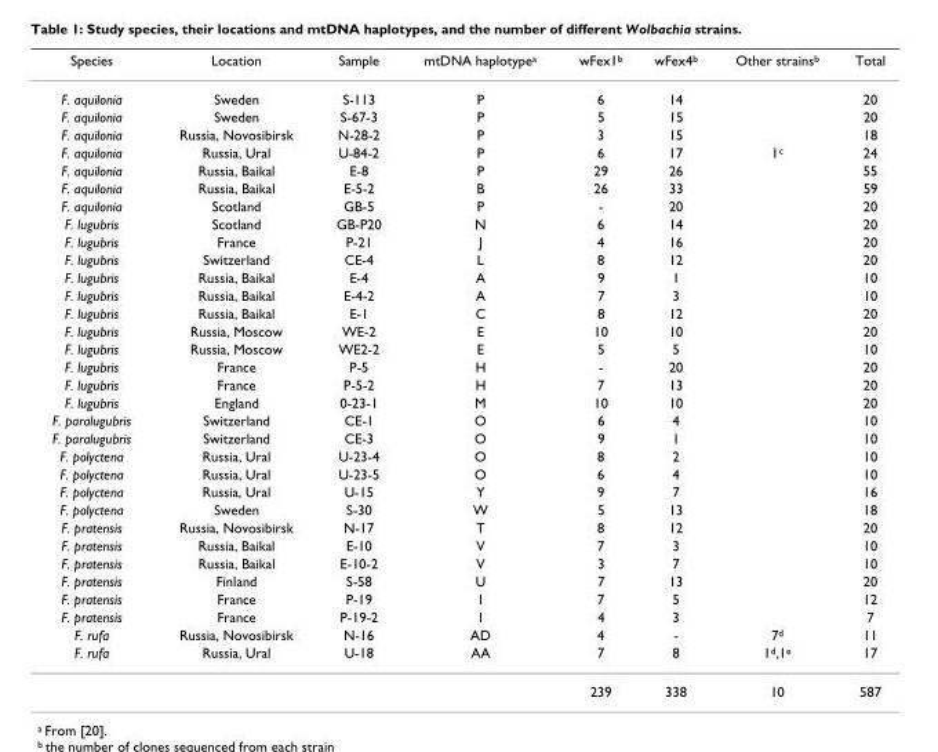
<table><thead><tr><td>Species</td><td>Location</td><td>Sample</td><td>mtDNA haplotype<sup>a</sup></td><td>wFex1<sup>b</sup></td><td>wFex4<sup>b</sup></td><td>Other strains<sup>b</sup></td><td>Total</td></tr></thead><tbody><tr><td>F. aquilonia</td><td>Sweden</td><td>S-113</td><td>P</td><td>6</td><td>14</td><td></td><td>20</td></tr><tr><td>F. aquilonia</td><td>Sweden</td><td>S-67-3</td><td>P</td><td>5</td><td>15</td><td></td><td>20</td></tr><tr><td>F. aquilonia</td><td>Russia, Novosibirsk</td><td>N-28-2</td><td>P</td><td>3</td><td>15</td><td></td><td>18</td></tr><tr><td>F. aquilonia</td><td>Russia, Ural</td><td>U-84-2</td><td>P</td><td>6</td><td>17</td><td>1<sup>c</sup></td><td>24</td></tr><tr><td>F. aquilonia</td><td>Russia, Baikal</td><td>E-8</td><td>P</td><td>29</td><td>26</td><td></td><td>55</td></tr><tr><td>F. aquilonia</td><td>Russia, Baikal</td><td>E-5-2</td><td>B</td><td>26</td><td>33</td><td></td><td>59</td></tr><tr><td>F. aquilonia</td><td>Scotland</td><td>GB-5</td><td>P</td><td>-</td><td>20</td><td></td><td>20</td></tr><tr><td>F. lugubris</td><td>Scotland</td><td>GB-P20</td><td>N</td><td>6</td><td>14</td><td></td><td>20</td></tr><tr><td>F. lugubris</td><td>France</td><td>P-21</td><td>J</td><td>4</td><td>16</td><td></td><td>20</td></tr><tr><td>F. lugubris</td><td>Switzerland</td><td>CE-4</td><td>L</td><td>8</td><td>12</td><td></td><td>20</td></tr><tr><td>F. lugubris</td><td>Russia, Baikal</td><td>E-4</td><td>A</td><td>9</td><td>1</td><td></td><td>10</td></tr><tr><td>F. lugubris</td><td>Russia, Baikal</td><td>E-4-2</td><td>A</td><td>7</td><td>3</td><td></td><td>10</td></tr><tr><td>F. lugubris</td><td>Russia, Baikal</td><td>E-1</td><td>C</td><td>8</td><td>12</td><td></td><td>20</td></tr><tr><td>F. lugubris</td><td>Russia, Moscow</td><td>WE-2</td><td>E</td><td>10</td><td>10</td><td></td><td>20</td></tr><tr><td>F. lugubris</td><td>Russia, Moscow</td><td>WE2-2</td><td>E</td><td>5</td><td>5</td><td></td><td>10</td></tr><tr><td>F. lugubris</td><td>France</td><td>P-5</td><td>H</td><td>-</td><td>20</td><td></td><td>20</td></tr><tr><td>F. lugubris</td><td>France</td><td>P-5-2</td><td>H</td><td>7</td><td>13</td><td></td><td>20</td></tr><tr><td>F. lugubris</td><td>England</td><td>0-23-1</td><td>M</td><td>10</td><td>10</td><td></td><td>20</td></tr><tr><td>F. paralugubris</td><td>Switzerland</td><td>CE-1</td><td>O</td><td>6</td><td>4</td><td></td><td>10</td></tr><tr><td>F. paralugubris</td><td>Switzerland</td><td>CE-3</td><td>O</td><td>9</td><td>1</td><td></td><td>10</td></tr><tr><td>F. polyctena</td><td>Russia, Ural</td><td>U-23-4</td><td>O</td><td>8</td><td>2</td><td></td><td>10</td></tr><tr><td>F. polyctena</td><td>Russia, Ural</td><td>U-23-5</td><td>O</td><td>6</td><td>4</td><td></td><td>10</td></tr><tr><td>F. polyctena</td><td>Russia, Ural</td><td>U-15</td><td>Y</td><td>9</td><td>7</td><td></td><td>16</td></tr><tr><td>F. polyctena</td><td>Sweden</td><td>S-30</td><td>W</td><td>5</td><td>13</td><td></td><td>18</td></tr><tr><td>F. pratensis</td><td>Russia, Novosibirsk</td><td>N-17</td><td>T</td><td>8</td><td>12</td><td></td><td>20</td></tr><tr><td>F. pratensis</td><td>Russia, Baikal</td><td>E-10</td><td>V</td><td>7</td><td>3</td><td></td><td>10</td></tr><tr><td>F. pratensis</td><td>Russia, Baikal</td><td>E-10-2</td><td>V</td><td>3</td><td>7</td><td></td><td>10</td></tr><tr><td>F. pratensis</td><td>Finland</td><td>S-58</td><td>U</td><td>7</td><td>13</td><td></td><td>20</td></tr><tr><td>F. pratensis</td><td>France</td><td>P-19</td><td>I</td><td>7</td><td>5</td><td></td><td>12</td></tr><tr><td>F. pratensis</td><td>France</td><td>P-19-2</td><td>I</td><td>4</td><td>3</td><td></td><td>7</td></tr><tr><td>F. rufa</td><td>Russia, Novosibirsk</td><td>N-16</td><td>AD</td><td>4</td><td>-</td><td>7<sup>d</sup></td><td>11</td></tr><tr><td rowspan="2">F. rufa</td><td>Russia, Ural</td><td>U-18</td><td>AA</td><td>7</td><td>8</td><td>1<sup>d</sup>,1<sup>e</sup></td><td>17</td></tr><tr><td></td><td></td><td></td><td>239</td><td>338</td><td>10</td><td>587</td></tr></tbody></table>